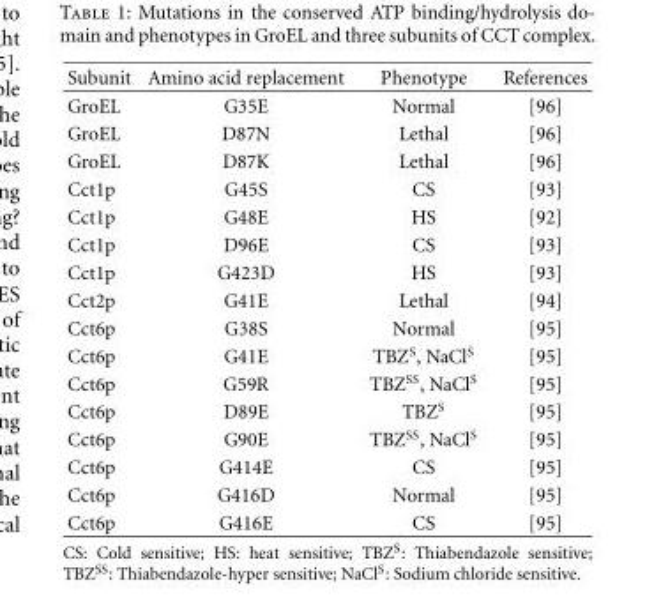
<table><thead><tr><td>Subunit</td><td>Amino acid replacement</td><td>Phenotype</td><td>References</td></tr></thead><tbody><tr><td>GroEL</td><td>G35E</td><td>Normal</td><td>[96]</td></tr><tr><td>GroEL</td><td>D87N</td><td>Lethal</td><td>[96]</td></tr><tr><td>GroEL</td><td>D87K</td><td>Lethal</td><td>[96]</td></tr><tr><td>Cct1p</td><td>G45S</td><td>CS</td><td>[93]</td></tr><tr><td>Cct1p</td><td>G48E</td><td>HS</td><td>[92]</td></tr><tr><td>Cct1p</td><td>D96E</td><td>CS</td><td>[93]</td></tr><tr><td>Cct1p</td><td>G423D</td><td>HS</td><td>[93]</td></tr><tr><td>Cct2p</td><td>G41E</td><td>Lethal</td><td>[94]</td></tr><tr><td>Cct6p</td><td>G38S</td><td>Normal</td><td>[95]</td></tr><tr><td>Cct6p</td><td>G41E</td><td>TBZ<sup>S</sup>, NaCl<sup>S</sup></td><td>[95]</td></tr><tr><td>Cct6p</td><td>G59R</td><td>TBZ<sup>SS</sup>, NaCl<sup>S</sup></td><td>[95]</td></tr><tr><td>Cct6p</td><td>D89E</td><td>TBZ<sup>S</sup></td><td>[95]</td></tr><tr><td>Cct6p</td><td>G90E</td><td>TBZ<sup>SS</sup>, NaCl<sup>S</sup></td><td>[95]</td></tr><tr><td>Cct6p</td><td>G414E</td><td>CS</td><td>[95]</td></tr><tr><td>Cct6p</td><td>G416D</td><td>Normal</td><td>[95]</td></tr><tr><td>Cct6p</td><td>G416E</td><td>CS</td><td>[95]</td></tr></tbody></table>